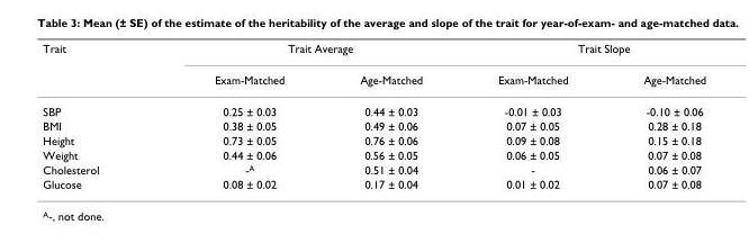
<table><thead><tr><td rowspan="2">Trait</td><td colspan="2">Trait Average</td><td colspan="2">Trait Slope</td></tr><tr><td>Exam-Matched</td><td>Age-Matched</td><td>Exam-Matched</td><td>Age-Matched</td></tr></thead><tbody><tr><td>SBP</td><td>0.25 ± 0.03</td><td>0.44 ± 0.03</td><td>-0.01 ± 0.03</td><td>-0.10 ± 0.06</td></tr><tr><td>BMI</td><td>0.38 ± 0.05</td><td>0.49 ± 0.06</td><td>0.07 ± 0.05</td><td>0.28 ± 0.18</td></tr><tr><td>Height</td><td>0.73 ± 0.05</td><td>0.76 ± 0.06</td><td>0.09 ± 0.08</td><td>0.15 ± 0.18</td></tr><tr><td>Weight</td><td>0.44 ± 0.06</td><td>0.56 ± 0.05</td><td>0.06 ± 0.05</td><td>0.07 ± 0.08</td></tr><tr><td>Cholesterol</td><td>-A</td><td>0.51 ± 0.04</td><td>-</td><td>0.06 ± 0.07</td></tr><tr><td>Glucose</td><td>0.08 ± 0.02</td><td>0.17 ± 0.04</td><td>0.01 ± 0.02</td><td>0.07 ± 0.08</td></tr></tbody></table>